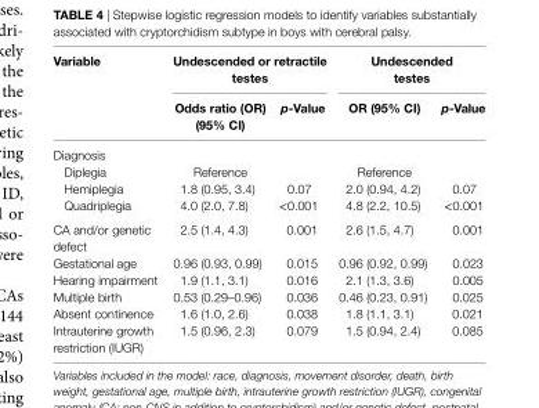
<table><thead><tr><td rowspan="2">Variable</td><td colspan="2">Undescended or retractile testes</td><td colspan="2">Undescended testes</td></tr><tr><td>Odds ratio (Or) (95% ci)</td><td>p-Value</td><td>Or (95% ci)</td><td>p-Value</td></tr></thead><tbody><tr><td colspan="5">Diagnosis</td></tr><tr><td>Diplegia</td><td>Reference</td><td></td><td>Reference</td><td></td></tr><tr><td>Hemiplegia</td><td>1.8 (0.95, 3.4)</td><td>0.07</td><td>2.0 (0.94, 4.2)</td><td>0.07</td></tr><tr><td>Quadriplegia</td><td>4.0 (2.0, 7.8)</td><td>&lt;0.001</td><td>4.8 (2.2, 10.5)</td><td>&lt;0.001</td></tr><tr><td>CA and/or genetic defect</td><td>2.5 (1.4, 4.3)</td><td>0.001</td><td>2.6 (1.5, 4.7)</td><td>0.001</td></tr><tr><td>Gestational age</td><td>0.96 (0.93, 0.99)</td><td>0.015</td><td>0.96 (0.92, 0.99)</td><td>0.023</td></tr><tr><td>Hearing impairment</td><td>1.9 (1.1, 3.1)</td><td>0.016</td><td>2.1 (1.3, 3.6)</td><td>0.005</td></tr><tr><td>Multiple birth</td><td>0.53 (0.29–0.96)</td><td>0.036</td><td>0.46 (0.23, 0.91)</td><td>0.025</td></tr><tr><td>Absent continence</td><td>1.6 (1.0, 2.6)</td><td>0.038</td><td>1.8 (1.1, 3.1)</td><td>0.021</td></tr><tr><td>Intrauterine growth restriction (IUGR)</td><td>1.5 (0.96, 2.3)</td><td>0.079</td><td>1.5 (0.94, 2.4)</td><td>0.085</td></tr></tbody></table>